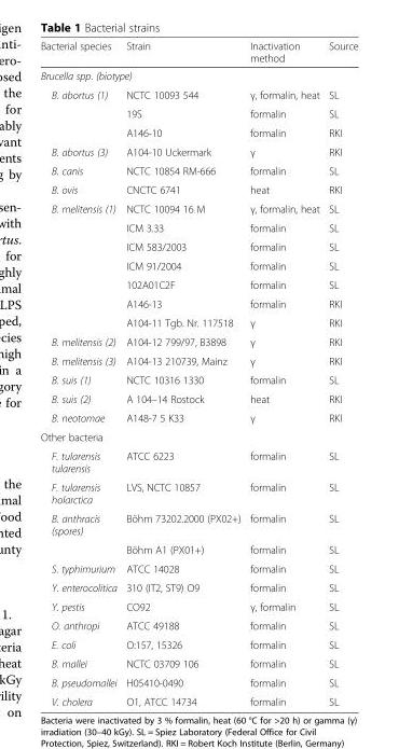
<table><thead><tr><td>Bacterial species</td><td>Strain</td><td>Inactivation method</td><td>Source</td></tr></thead><tbody><tr><td colspan="4">Brucella spp. (biotype)</td></tr><tr><td rowspan="3">B. abortus (1)</td><td>NCTC 10093 544</td><td>γ, formalin, heat</td><td>SL</td></tr><tr><td>19S</td><td>formalin</td><td>SL</td></tr><tr><td>A146-10</td><td>formalin</td><td>RKI</td></tr><tr><td>B. abortus (3)</td><td>A104-10 Uckermark</td><td>γ</td><td>RKI</td></tr><tr><td>B. canis</td><td>NCTC 10854 RM-666</td><td>formalin</td><td>SL</td></tr><tr><td>B. ovis</td><td>CNCTC 6741</td><td>heat</td><td>RKI</td></tr><tr><td rowspan="7">B. melitensis (1)</td><td>NCTC 10094 16 M</td><td>γ, formalin, heat</td><td>SL</td></tr><tr><td>ICM 3.33</td><td>formalin</td><td>SL</td></tr><tr><td>ICM 583/2003</td><td>formalin</td><td>SL</td></tr><tr><td>ICM 91/2004</td><td>formalin</td><td>SL</td></tr><tr><td>102A01C2F</td><td>formalin</td><td>SL</td></tr><tr><td>A146-13</td><td>formalin</td><td>RKI</td></tr><tr><td>A104-11 Tgb. Nr. 117518</td><td>γ</td><td>RKI</td></tr><tr><td>B. melitensis (2)</td><td>A104-12 799/97, B3898</td><td>γ</td><td>RKI</td></tr><tr><td>B. melitensis (3)</td><td>A104-13 210739, Mainz</td><td>γ</td><td>RKI</td></tr><tr><td>B. suis (1)</td><td>NCTC 10316 1330</td><td>formalin</td><td>SL</td></tr><tr><td>B. suis (2)</td><td>A 104–14 Rostock</td><td>heat</td><td>RKI</td></tr><tr><td>B. neotomae</td><td>A148-7 5 K33</td><td>γ</td><td>RKI</td></tr><tr><td colspan="4">Other bacteria</td></tr><tr><td>F. tularensis tularensis</td><td>ATCC 6223</td><td>formalin</td><td>SL</td></tr><tr><td>F. tularensis holarctica</td><td>LVS, NCTC 10857</td><td>formalin</td><td>SL</td></tr><tr><td rowspan="2">B. anthracis (spores)</td><td>Böhm 73202.2000 (PX02+)</td><td>formalin</td><td>SL</td></tr><tr><td>Böhm A1 (PX01+)</td><td>formalin</td><td>SL</td></tr><tr><td>S. typhimurium</td><td>ATCC 14028</td><td>formalin</td><td>SL</td></tr><tr><td>Y. enterocolitica</td><td>310 (IT2, ST9) O9</td><td>formalin</td><td>SL</td></tr><tr><td>Y. pestis</td><td>CO92</td><td>γ, formalin</td><td>SL</td></tr><tr><td>O. anthropi</td><td>ATCC 49188</td><td>formalin</td><td>SL</td></tr><tr><td>E. coli</td><td>O:157, 15326</td><td>formalin</td><td>SL</td></tr><tr><td>B. mallei</td><td>NCTC 03709 106</td><td>formalin</td><td>SL</td></tr><tr><td>B. pseudomallei</td><td>H05410-0490</td><td>formalin</td><td>SL</td></tr><tr><td>V. cholera</td><td>O1, ATCC 14734</td><td>formalin</td><td>SL</td></tr></tbody></table>